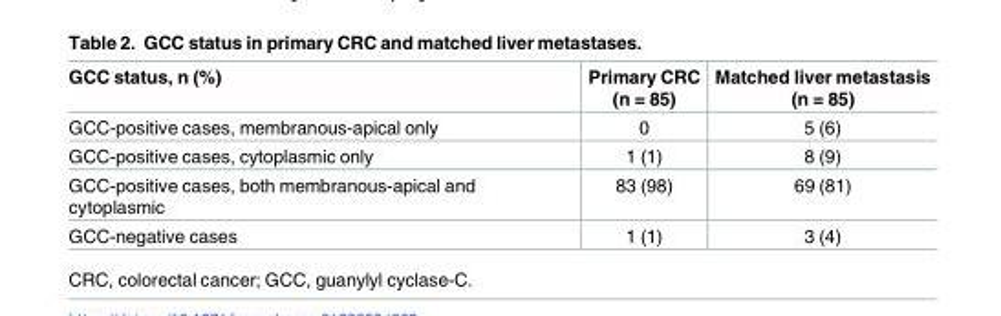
<table><thead><tr><td>GCC status, n (%)</td><td>Primary CRC (n = 85)</td><td>Matched liver metastasis (n = 85)</td></tr></thead><tbody><tr><td>GCC-positive cases, membranous-apical only</td><td>0</td><td>5 (6)</td></tr><tr><td>GCC-positive cases, cytoplasmic only</td><td>1 (1)</td><td>8 (9)</td></tr><tr><td>GCC-positive cases, both membranous-apical and cytoplasmic</td><td>83 (98)</td><td>69 (81)</td></tr><tr><td>GCC-negative cases</td><td>1 (1)</td><td>3 (4)</td></tr></tbody></table>